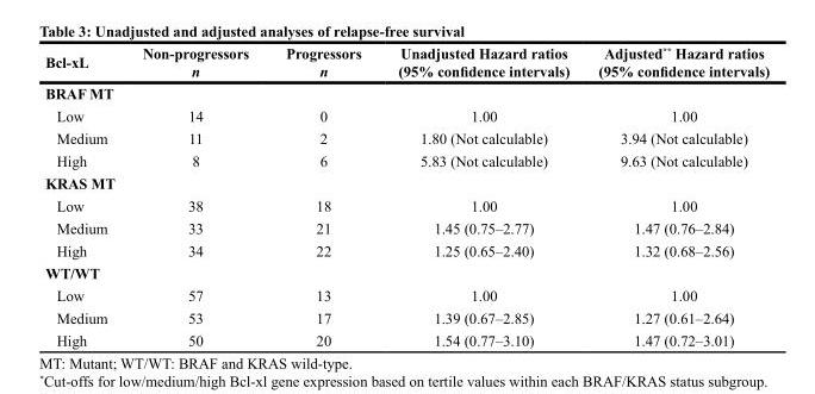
<table><thead><tr><td>Bcl-xL</td><td>Non-progressors n</td><td>Progressors n</td><td>Unadjusted Hazard ratios (95% confidence intervals)</td><td>Adjusted** Hazard ratios (95% confidence intervals)</td></tr></thead><tbody><tr><td colspan="5">BRAF MT</td></tr><tr><td>Low</td><td>14</td><td>0</td><td>1.00</td><td>1.00</td></tr><tr><td>Medium</td><td>11</td><td>2</td><td>1.80 (Not calculable)</td><td>3.94 (Not calculable)</td></tr><tr><td>High</td><td>8</td><td>6</td><td>5.83 (Not calculable)</td><td>9.63 (Not calculable)</td></tr><tr><td colspan="5">KRAS MT</td></tr><tr><td>Low</td><td>38</td><td>18</td><td>1.00</td><td>1.00</td></tr><tr><td>Medium</td><td>33</td><td>21</td><td>1.45 (0.75–2.77)</td><td>1.47 (0.76–2.84)</td></tr><tr><td>High</td><td>34</td><td>22</td><td>1.25 (0.65–2.40)</td><td>1.32 (0.68–2.56)</td></tr><tr><td colspan="5">WT/WT</td></tr><tr><td>Low</td><td>57</td><td>13</td><td>1.00</td><td>1.00</td></tr><tr><td>Medium</td><td>53</td><td>17</td><td>1.39 (0.67–2.85)</td><td>1.27 (0.61–2.64)</td></tr><tr><td>High</td><td>50</td><td>20</td><td>1.54 (0.77–3.10)</td><td>1.47 (0.72–3.01)</td></tr></tbody></table>